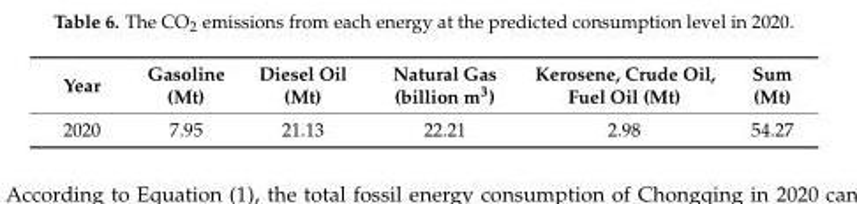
<table><thead><tr><td>Year</td><td>Gasoline (Mt)</td><td>Diesel Oil (Mt)</td><td>Natural Gas (billion m<sup>3</sup>)</td><td>Kerosene, Crude Oil, Fuel Oil (Mt)</td><td>Sum (Mt)</td></tr></thead><tbody><tr><td>2020</td><td>7.95</td><td>21.13</td><td>22.21</td><td>2.98</td><td>54.27</td></tr></tbody></table>